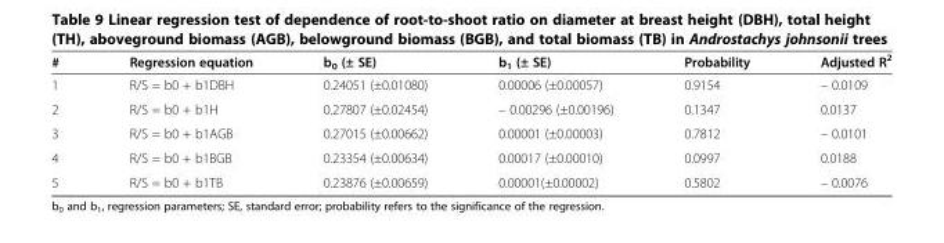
<table><thead><tr><td>#</td><td>Regression equation</td><td>b<sub>0</sub> (± SE)</td><td>b<sub>1</sub> (± SE)</td><td>Probability</td><td>Adjusted R<sup>2</sup></td></tr></thead><tbody><tr><td>1</td><td>R/S = b0 + b1DBH</td><td>0.24051 (±0.01080)</td><td>0.00006 (±0.00057)</td><td>0.9154</td><td>– 0.0109</td></tr><tr><td>2</td><td>R/S = b0 + b1H</td><td>0.27807 (±0.02454)</td><td>– 0.00296 (±0.00196)</td><td>0.1347</td><td>0.0137</td></tr><tr><td>3</td><td>R/S = b0 + b1AGB</td><td>0.27015 (±0.00662)</td><td>0.00001 (±0.00003)</td><td>0.7812</td><td>– 0.0101</td></tr><tr><td>4</td><td>R/S = b0 + b1BGB</td><td>0.23354 (±0.00634)</td><td>0.00017 (±0.00010)</td><td>0.0997</td><td>0.0188</td></tr><tr><td>5</td><td>R/S = b0 + b1TB</td><td>0.23876 (±0.00659)</td><td>0.00001(±0.00002)</td><td>0.5802</td><td>– 0.0076</td></tr></tbody></table>